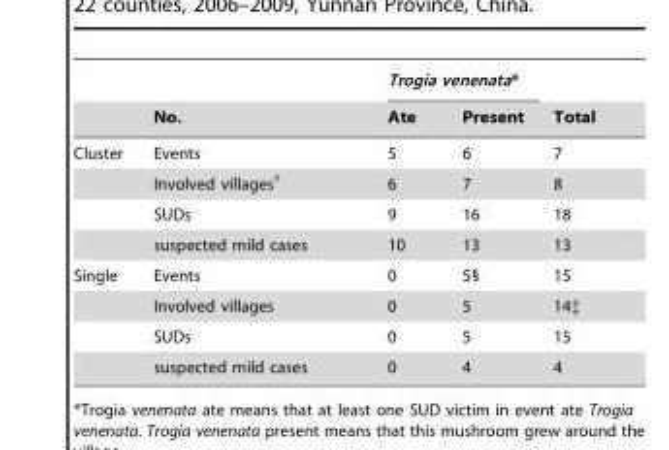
<table><thead><tr><td rowspan="2"></td><td rowspan="2">No.</td><td colspan="2">Trogia venenata*</td><td rowspan="2">Total</td></tr><tr><td>Ate</td><td>Present</td></tr></thead><tbody><tr><td rowspan="4">Cluster</td><td>Events</td><td>5</td><td>6</td><td>7</td></tr><tr><td>Involved villages†</td><td>6</td><td>7</td><td>8</td></tr><tr><td>SUDs</td><td>9</td><td>16</td><td>18</td></tr><tr><td>suspected mild cases</td><td>10</td><td>13</td><td>13</td></tr><tr><td rowspan="4">Single</td><td>Events</td><td>0</td><td>5§</td><td>15</td></tr><tr><td>Involved villages</td><td>0</td><td>5</td><td>14‡</td></tr><tr><td>SUDs</td><td>0</td><td>5</td><td>15</td></tr><tr><td>suspected mild cases</td><td>0</td><td>4</td><td>4</td></tr></tbody></table>